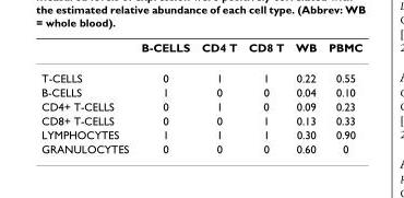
<table><thead><tr><td></td><td>B-CELLS</td><td>CD4 T</td><td>CD8 T</td><td>WB</td><td>PBMC</td></tr></thead><tbody><tr><td>T-CELLS</td><td>0</td><td>1</td><td>1</td><td>0.22</td><td>0.55</td></tr><tr><td>B-CELLS</td><td>1</td><td>0</td><td>0</td><td>0.04</td><td>0.10</td></tr><tr><td>CD4+ T-CELLS</td><td>0</td><td>1</td><td>0</td><td>0.09</td><td>0.23</td></tr><tr><td>CD8+ T-CELLS</td><td>0</td><td>0</td><td>1</td><td>0.13</td><td>0.33</td></tr><tr><td>LYMPHOCYTES</td><td>1</td><td>1</td><td>1</td><td>0.30</td><td>0.90</td></tr><tr><td>GRANULOCYTES</td><td>0</td><td>0</td><td>0</td><td>0.60</td><td>0</td></tr></tbody></table>